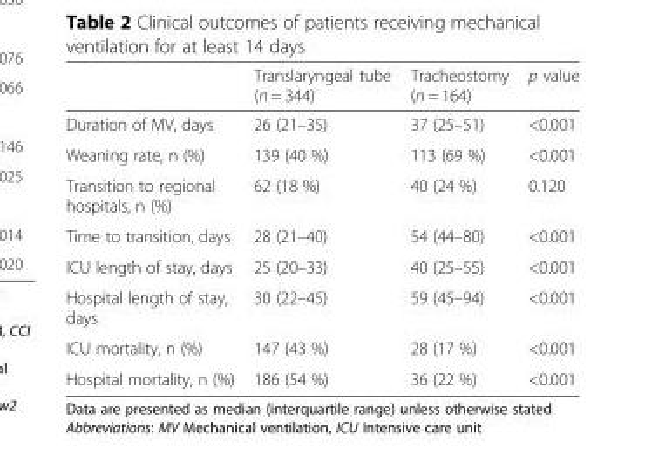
<table><thead><tr><td></td><td>Translaryngeal tube (n = 344)</td><td>Tracheostomy (n = 164)</td><td>p value</td></tr></thead><tbody><tr><td>Duration of MV, days</td><td>26 (21–35)</td><td>37 (25–51)</td><td>&lt;0.001</td></tr><tr><td>Weaning rate, n (%)</td><td>139 (40 %)</td><td>113 (69 %)</td><td>&lt;0.001</td></tr><tr><td>Transition to regional hospitals, n (%)</td><td>62 (18 %)</td><td>40 (24 %)</td><td>0.120</td></tr><tr><td>Time to transition, days</td><td>28 (21–40)</td><td>54 (44–80)</td><td>&lt;0.001</td></tr><tr><td>ICU length of stay, days</td><td>25 (20–33)</td><td>40 (25–55)</td><td>&lt;0.001</td></tr><tr><td>Hospital length of stay, days</td><td>30 (22–45)</td><td>59 (45–94)</td><td>&lt;0.001</td></tr><tr><td>ICU mortality, n (%)</td><td>147 (43 %)</td><td>28 (17 %)</td><td>&lt;0.001</td></tr><tr><td>Hospital mortality, n (%)</td><td>186 (54 %)</td><td>36 (22 %)</td><td>&lt;0.001</td></tr></tbody></table>